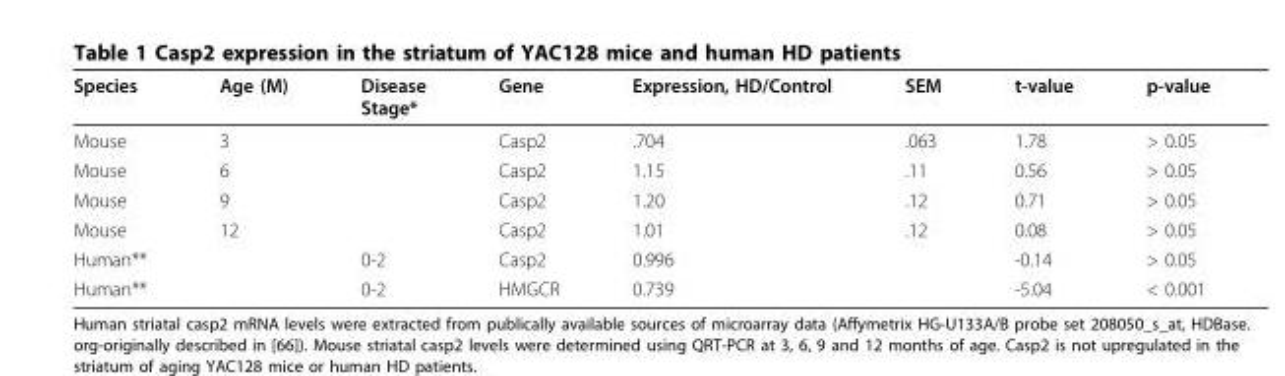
<table><thead><tr><td>Species</td><td>Age (M)</td><td>Disease Stage*</td><td>Gene</td><td>Expression, HD/Control</td><td>SEM</td><td>t-value</td><td>p-value</td></tr></thead><tbody><tr><td>Mouse</td><td>3</td><td></td><td>Casp2</td><td>.704</td><td>.063</td><td>1.78</td><td>&gt; 0.05</td></tr><tr><td>Mouse</td><td>6</td><td></td><td>Casp2</td><td>1.15</td><td>.11</td><td>0.56</td><td>&gt; 0.05</td></tr><tr><td>Mouse</td><td>9</td><td></td><td>Casp2</td><td>1.20</td><td>.12</td><td>0.71</td><td>&gt; 0.05</td></tr><tr><td>Mouse</td><td>12</td><td></td><td>Casp2</td><td>1.01</td><td>.12</td><td>0.08</td><td>&gt; 0.05</td></tr><tr><td>Human**</td><td></td><td>0-2</td><td>Casp2</td><td>0.996</td><td></td><td>-0.14</td><td>&gt; 0.05</td></tr><tr><td>Human**</td><td></td><td>0-2</td><td>HMGCR</td><td>0.739</td><td></td><td>-5.04</td><td>&lt; 0.001</td></tr></tbody></table>